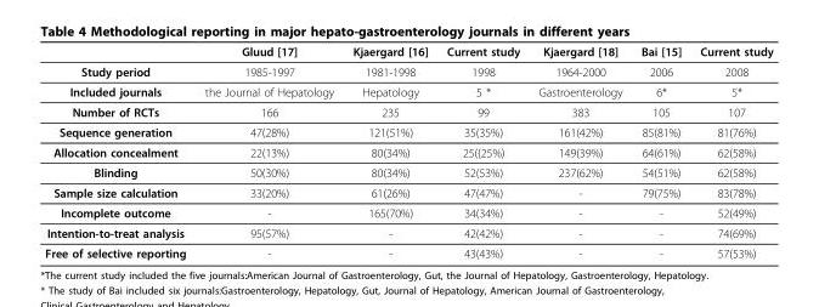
<table><thead><tr><td></td><td>Gluud [17]</td><td>Kjaergard [16]</td><td>Current study</td><td>Kjaergard [18]</td><td>Bai [15]</td><td>Current study</td></tr></thead><tbody><tr><td>Study period</td><td>1985-1997</td><td>1981-1998</td><td>1998</td><td>1964-2000</td><td>2006</td><td>2008</td></tr><tr><td>Included journals</td><td>the Journal of Hepatology</td><td>Hepatology</td><td>5 *</td><td>Gastroenterology</td><td>6*</td><td>5*</td></tr><tr><td>Number of RCTs</td><td>166</td><td>235</td><td>99</td><td>383</td><td>105</td><td>107</td></tr><tr><td>Sequence generation</td><td>47(28%)</td><td>121(51%)</td><td>35(35%)</td><td>161(42%)</td><td>85(81%)</td><td>81(76%)</td></tr><tr><td>Allocation concealment</td><td>22(13%)</td><td>80(34%)</td><td>25({25%)</td><td>149(39%)</td><td>64(61%)</td><td>62(58%)</td></tr><tr><td>Blinding</td><td>50(30%)</td><td>80(34%)</td><td>52(53%)</td><td>237(62%)</td><td>54(51%)</td><td>62(58%)</td></tr><tr><td>Sample size calculation</td><td>33(20%)</td><td>61(26%)</td><td>47(47%)</td><td>-</td><td>79(75%)</td><td>83(78%)</td></tr><tr><td>Incomplete outcome</td><td>-</td><td>165(70%)</td><td>34(34%)</td><td>-</td><td>-</td><td>52(49%)</td></tr><tr><td>Intention-to-treat analysis</td><td>95(57%)</td><td>-</td><td>42(42%)</td><td>-</td><td>-</td><td>74(69%)</td></tr><tr><td>Free of selective reporting</td><td>-</td><td>-</td><td>43(43%)</td><td>-</td><td>-</td><td>57(53%)</td></tr></tbody></table>